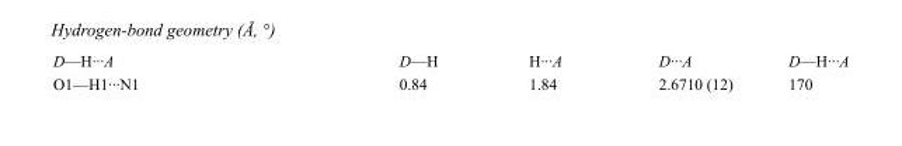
<table><tbody><tr><td>D—H···A</td><td>D—H</td><td>H···A</td><td>D···A</td><td>D—H···A</td></tr><tr><td>O1—H1···N1</td><td>0.84</td><td>1.84</td><td>2.6710 (12)</td><td>170</td></tr></tbody></table>